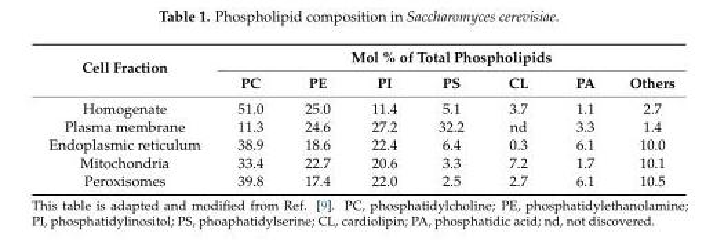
<table><thead><tr><td rowspan="2">Cell Fraction</td><td colspan="7">Mol % of Total Phospholipids</td></tr><tr><td>PC</td><td>PE</td><td>PI</td><td>PS</td><td>CL</td><td>PA</td><td>Others</td></tr></thead><tbody><tr><td>Homogenate</td><td>51.0</td><td>25.0</td><td>11.4</td><td>5.1</td><td>3.7</td><td>1.1</td><td>2.7</td></tr><tr><td>Plasma membrane</td><td>11.3</td><td>24.6</td><td>27.2</td><td>32.2</td><td>nd</td><td>3.3</td><td>1.4</td></tr><tr><td>Endoplasmic reticulum</td><td>38.9</td><td>18.6</td><td>22.4</td><td>6.4</td><td>0.3</td><td>6.1</td><td>10.0</td></tr><tr><td>Mitochondria</td><td>33.4</td><td>22.7</td><td>20.6</td><td>3.3</td><td>7.2</td><td>1.7</td><td>10.1</td></tr><tr><td>Peroxisomes</td><td>39.8</td><td>17.4</td><td>22.0</td><td>2.5</td><td>2.7</td><td>6.1</td><td>10.5</td></tr></tbody></table>